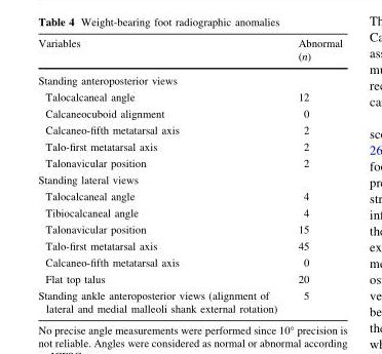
<table><thead><tr><td>Variables</td><td>Abnormal (n)</td></tr></thead><tbody><tr><td colspan="2">Standing anteroposterior views</td></tr><tr><td>Talocalcaneal angle</td><td>12</td></tr><tr><td>Calcaneocuboid alignment</td><td>0</td></tr><tr><td>Calcaneo-fifth metatarsal axis</td><td>2</td></tr><tr><td>Talo-first metatarsal axis</td><td>2</td></tr><tr><td>Talonavicular position</td><td>2</td></tr><tr><td colspan="2">Standing lateral views</td></tr><tr><td>Talocalcaneal angle</td><td>4</td></tr><tr><td>Tibiocalcaneal angle</td><td>4</td></tr><tr><td>Talonavicular position</td><td>15</td></tr><tr><td>Talo-first metatarsal axis</td><td>45</td></tr><tr><td>Calcaneo-fifth metatarsal axis</td><td>0</td></tr><tr><td>Flat top talus</td><td>20</td></tr><tr><td>Standing ankle anteroposterior views (alignment of lateral and medial malleoli shank external rotation)</td><td>5</td></tr></tbody></table>